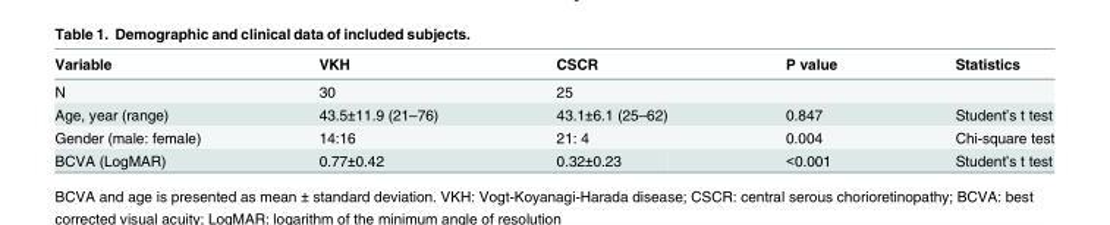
<table><thead><tr><td>Variable</td><td>VKH</td><td>CSCR</td><td>P value</td><td>Statistics</td></tr></thead><tbody><tr><td>N</td><td>30</td><td>25</td><td></td><td></td></tr><tr><td>Age, year (range)</td><td>43.5±11.9 (21–76)</td><td>43.1±6.1 (25–62)</td><td>0.847</td><td>Student’s t test</td></tr><tr><td>Gender (male: female)</td><td>14:16</td><td>21: 4</td><td>0.004</td><td>Chi-square test</td></tr><tr><td>BCVA (LogMAR)</td><td>0.77±0.42</td><td>0.32±0.23</td><td>&lt;0.001</td><td>Student’s t test</td></tr></tbody></table>